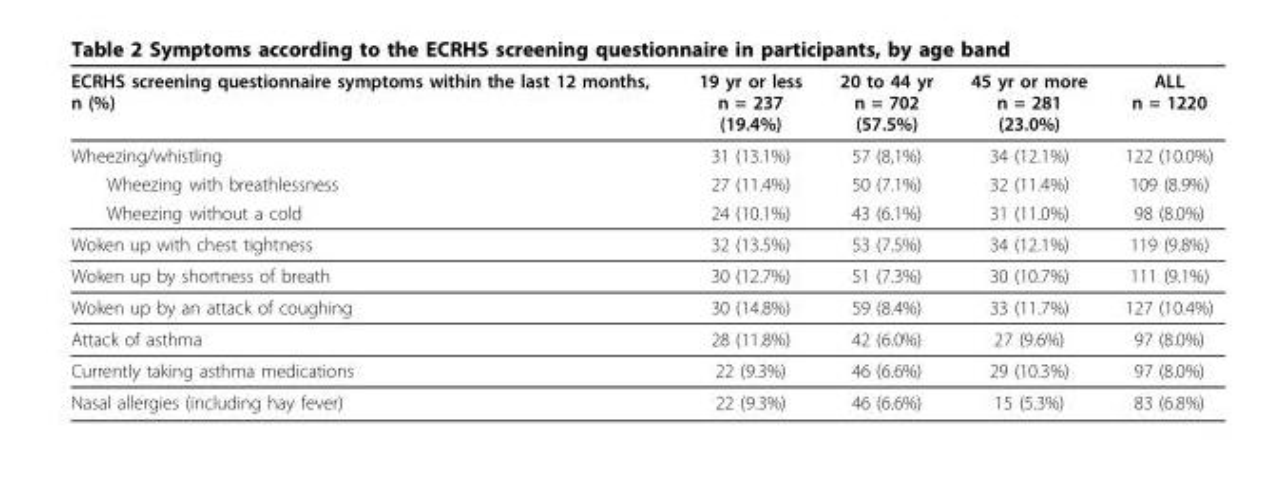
<table><thead><tr><td>ECRHS screening questionnaire symptoms within the last 12 months, n (%)</td><td>19 yr or less n = 237 (19.4%)</td><td>20 to 44 yr n = 702 (57.5%)</td><td>45 yr or more n = 281 (23.0%)</td><td>ALL n = 1220</td></tr></thead><tbody><tr><td>Wheezing/whistling</td><td>31 (13.1%)</td><td>57 (8,1%)</td><td>34 (12.1%)</td><td>122 (10.0%)</td></tr><tr><td>Wheezing with breathlessness</td><td>27 (11.4%)</td><td>50 (7.1%)</td><td>32 (11.4%)</td><td>109 (8.9%)</td></tr><tr><td>Wheezing without a cold</td><td>24 (10.1%)</td><td>43 (6.1%)</td><td>31 (11.0%)</td><td>98 (8.0%)</td></tr><tr><td>Woken up with chest tightness</td><td>32 (13.5%)</td><td>53 (7.5%)</td><td>34 (12.1%)</td><td>119 (9.8%)</td></tr><tr><td>Woken up by shortness of breath</td><td>30 (12.7%)</td><td>51 (7.3%)</td><td>30 (10.7%)</td><td>111 (9.1%)</td></tr><tr><td>Woken up by an attack of coughing</td><td>30 (14.8%)</td><td>59 (8.4%)</td><td>33 (11.7%)</td><td>127 (10.4%)</td></tr><tr><td>Attack of asthma</td><td>28 (11.8%)</td><td>42 (6.0%)</td><td>27 (9.6%)</td><td>97 (8.0%)</td></tr><tr><td>Currently taking asthma medications</td><td>22 (9.3%)</td><td>46 (6.6%)</td><td>29 (10.3%)</td><td>97 (8.0%)</td></tr><tr><td>Nasal allergies (including hay fever)</td><td>22 (9.3%)</td><td>46 (6.6%)</td><td>15 (5.3%)</td><td>83 (6.8%)</td></tr></tbody></table>